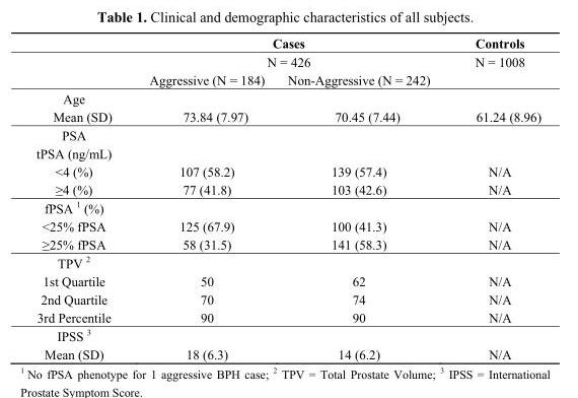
<table><thead><tr><td rowspan="3"></td><td rowspan="2" colspan="2">Cases N = 426</td><td rowspan="3">Controls N = 1008</td></tr><tr></tr><tr><td>Aggressive (N = 184)</td><td>Non-Aggressive (N = 242)</td></tr></thead><tbody><tr><td colspan="4">Age</td></tr><tr><td>Mean (SD)</td><td>73.84 (7.97)</td><td>70.45 (7.44)</td><td>61.24 (8.96)</td></tr><tr><td colspan="4">PSA</td></tr><tr><td colspan="4">tPSA (ng/mL)</td></tr><tr><td>&lt;4 (%)</td><td>107 (58.2)</td><td>139 (57.4)</td><td>N/A</td></tr><tr><td>≥4 (%)</td><td>77 (41.8)</td><td>103 (42.6)</td><td>N/A</td></tr><tr><td colspan="4">fPSA 1 (%)</td></tr><tr><td>&lt;25% fPSA</td><td>125 (67.9)</td><td>100 (41.3)</td><td>N/A</td></tr><tr><td>≥25% fPSA</td><td>58 (31.5)</td><td>141 (58.3)</td><td>N/A</td></tr><tr><td colspan="4">TPV 2</td></tr><tr><td>1st Quartile</td><td>50</td><td>62</td><td>N/A</td></tr><tr><td>2nd Quartile</td><td>70</td><td>74</td><td>N/A</td></tr><tr><td>3rd Percentile</td><td>90</td><td>90</td><td>N/A</td></tr><tr><td colspan="4">IPSS 3</td></tr><tr><td>Mean (SD)</td><td>18 (6.3)</td><td>14 (6.2)</td><td>N/A</td></tr></tbody></table>